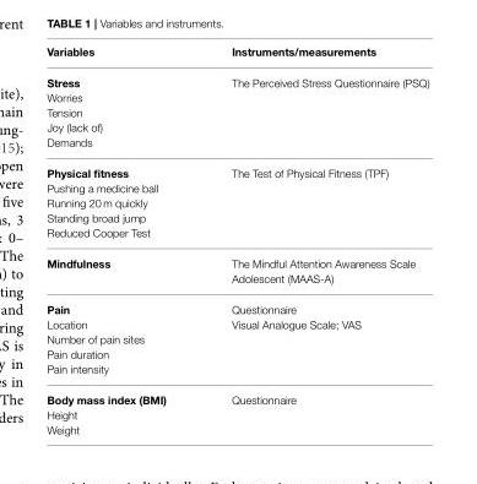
<table><thead><tr><td>Variables</td><td>Instruments/measurements</td></tr></thead><tbody><tr><td>Stress Worries Tension Joy (lack of) Demands</td><td>The Perceived Stress Questionnaire (PSQ)</td></tr><tr><td>Physical fitness Pushing a medicine ball Running 20 m quickly Standing broad jump Reduced Cooper Test</td><td>The Test of Physical Fitness (TPF)</td></tr><tr><td>Mindfulness</td><td>The Mindful Attention Awareness Scale Adolescent (MAAS-A)</td></tr><tr><td>Pain Location Number of pain sites Pain duration Pain intensity</td><td>Questionnaire Visual Analogue Scale; VAS</td></tr><tr><td>Body mass index (BMI) Height Weight</td><td>Questionnaire</td></tr></tbody></table>